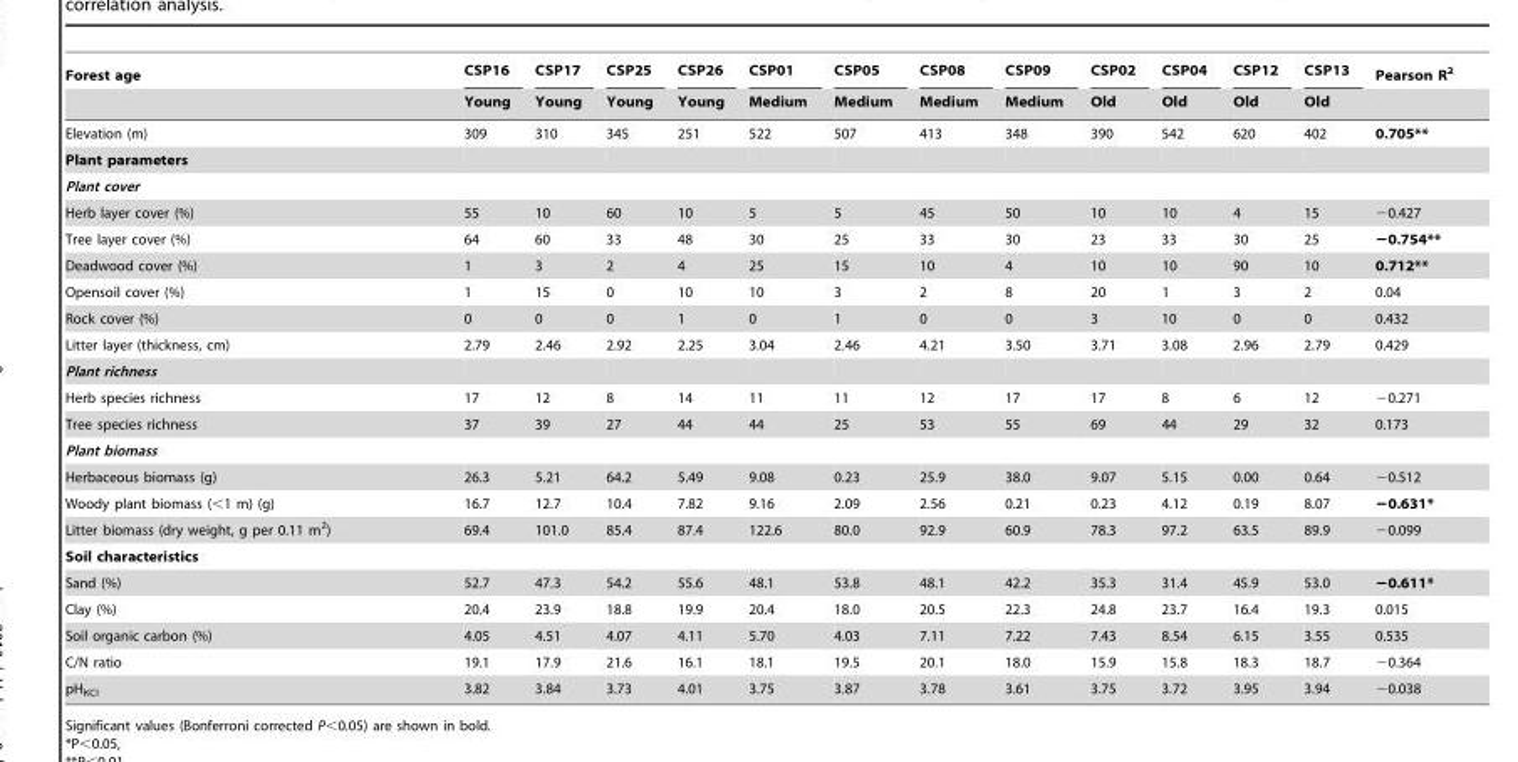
<table><thead><tr><td rowspan="2">Forest age</td><td rowspan="2">CSP16 Young</td><td rowspan="2">CSP17 Young</td><td rowspan="2">CSP25 Young</td><td rowspan="2">CSP26 Young</td><td rowspan="2">CSP01 Medium</td><td rowspan="2">CSP05 Medium</td><td rowspan="2">CSP08 Medium</td><td rowspan="2">CSP09 Medium</td><td rowspan="2">CSP02 Old</td><td rowspan="2">CSP04 Old</td><td rowspan="2">CSP12 Old</td><td rowspan="2">CSP13 Old</td><td rowspan="2">Pearson R<sup>2</sup></td></tr><tr></tr></thead><tbody><tr><td>Elevation (m)</td><td>309</td><td>310</td><td>345</td><td>251</td><td>522</td><td>507</td><td>413</td><td>348</td><td>390</td><td>542</td><td>620</td><td>402</td><td>0.705**</td></tr><tr><td colspan="14">Plant parameters</td></tr><tr><td colspan="14">Plant cover</td></tr><tr><td>Herb layer cover (%)</td><td>55</td><td>10</td><td>60</td><td>10</td><td>5</td><td>5</td><td>45</td><td>50</td><td>10</td><td>10</td><td>4</td><td>15</td><td>−0.427</td></tr><tr><td>Tree layer cover (%)</td><td>64</td><td>60</td><td>33</td><td>48</td><td>30</td><td>25</td><td>33</td><td>30</td><td>23</td><td>33</td><td>30</td><td>25</td><td>−0.754**</td></tr><tr><td>Deadwood cover (%)</td><td>1</td><td>3</td><td>2</td><td>4</td><td>25</td><td>15</td><td>10</td><td>4</td><td>10</td><td>10</td><td>90</td><td>10</td><td>0.712**</td></tr><tr><td>Opensoil cover (%)</td><td>1</td><td>15</td><td>0</td><td>10</td><td>10</td><td>3</td><td>2</td><td>8</td><td>20</td><td>1</td><td>3</td><td>2</td><td>0.04</td></tr><tr><td>Rock cover (%)</td><td>0</td><td>0</td><td>0</td><td>1</td><td>0</td><td>1</td><td>0</td><td>0</td><td>3</td><td>10</td><td>0</td><td>0</td><td>0.432</td></tr><tr><td>Litter layer (thickness, cm)</td><td>2.79</td><td>2.46</td><td>2.92</td><td>2.25</td><td>3.04</td><td>2.46</td><td>4.21</td><td>3.50</td><td>3.71</td><td>3.08</td><td>2.96</td><td>2.79</td><td>0.429</td></tr><tr><td colspan="14">Plant richness</td></tr><tr><td>Herb species richness</td><td>17</td><td>12</td><td>8</td><td>14</td><td>11</td><td>11</td><td>12</td><td>17</td><td>17</td><td>8</td><td>6</td><td>12</td><td>−0.271</td></tr><tr><td>Tree species richness</td><td>37</td><td>39</td><td>27</td><td>44</td><td>44</td><td>25</td><td>53</td><td>55</td><td>69</td><td>44</td><td>29</td><td>32</td><td>0.173</td></tr><tr><td colspan="14">Plant biomass</td></tr><tr><td>Herbaceous biomass (g)</td><td>26.3</td><td>5.21</td><td>64.2</td><td>5.49</td><td>9.08</td><td>0.23</td><td>25.9</td><td>38.0</td><td>9.07</td><td>5.15</td><td>0.00</td><td>0.64</td><td>−0.512</td></tr><tr><td>Woody plant biomass (&lt;1 m) (g)</td><td>16.7</td><td>12.7</td><td>10.4</td><td>7.82</td><td>9.16</td><td>2.09</td><td>2.56</td><td>0.21</td><td>0.23</td><td>4.12</td><td>0.19</td><td>8.07</td><td>−0.631*</td></tr><tr><td>Litter biomass (dry weight, g per 0.11 m<sup>2</sup>)</td><td>69.4</td><td>101.0</td><td>85.4</td><td>87.4</td><td>122.6</td><td>80.0</td><td>92.9</td><td>60.9</td><td>78.3</td><td>97.2</td><td>63.5</td><td>89.9</td><td>−0.099</td></tr><tr><td colspan="14">Soil characteristics</td></tr><tr><td>Sand (%)</td><td>52.7</td><td>47.3</td><td>54.2</td><td>55.6</td><td>48.1</td><td>53.8</td><td>48.1</td><td>42.2</td><td>35.3</td><td>31.4</td><td>45.9</td><td>53.0</td><td>−0.611*</td></tr><tr><td>Clay (%)</td><td>20.4</td><td>23.9</td><td>18.8</td><td>19.9</td><td>20.4</td><td>18.0</td><td>20.5</td><td>22.3</td><td>24.8</td><td>23.7</td><td>16.4</td><td>19.3</td><td>0.015</td></tr><tr><td>Soil organic carbon (%)</td><td>4.05</td><td>4.51</td><td>4.07</td><td>4.11</td><td>5.70</td><td>4.03</td><td>7.11</td><td>7.22</td><td>7.43</td><td>8.54</td><td>6.15</td><td>3.55</td><td>0.535</td></tr><tr><td>C/N ratio</td><td>19.1</td><td>17.9</td><td>21.6</td><td>16.1</td><td>18.1</td><td>19.5</td><td>20.1</td><td>18.0</td><td>15.9</td><td>15.8</td><td>18.3</td><td>18.7</td><td>−0.364</td></tr><tr><td>pH<sub>KCl</sub></td><td>3.82</td><td>3.84</td><td>3.73</td><td>4.01</td><td>3.75</td><td>3.87</td><td>3.78</td><td>3.61</td><td>3.75</td><td>3.72</td><td>3.95</td><td>3.94</td><td>−0.038</td></tr></tbody></table>